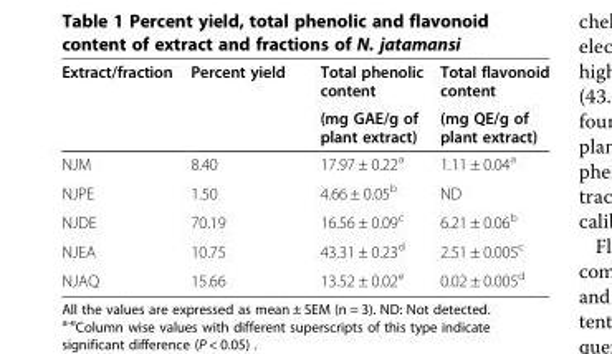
<table><thead><tr><td rowspan="2">Extract/fraction</td><td rowspan="2">Percent yield</td><td rowspan="2">Total phenolic content (mg GAE/g of plant extract)</td><td rowspan="2">Total flavonoid content (mg QE/g of plant extract)</td></tr><tr></tr></thead><tbody><tr><td>NJM</td><td>8.40</td><td>17.97 ± 0.22<sup>a</sup></td><td>1.11 ± 0.04<sup>a</sup></td></tr><tr><td>NJPE</td><td>1.50</td><td>4.66 ± 0.05<sup>b</sup></td><td>ND</td></tr><tr><td>NJDE</td><td>70.19</td><td>16.56 ± 0.09<sup>c</sup></td><td>6.21 ± 0.06<sup>b</sup></td></tr><tr><td>NJEA</td><td>10.75</td><td>43.31 ± 0.23<sup>d</sup></td><td>2.51 ± 0.005<sup>c</sup></td></tr><tr><td>NJAQ</td><td>15.66</td><td>13.52 ± 0.02<sup>e</sup></td><td>0.02 ± 0.005<sup>d</sup></td></tr></tbody></table>